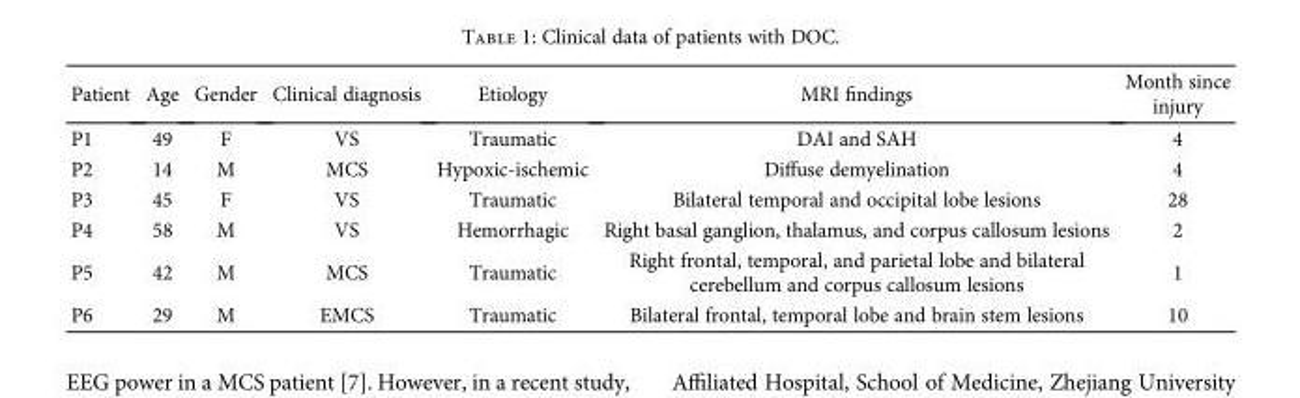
<table><thead><tr><td>Patient</td><td>Age</td><td>Gender</td><td>Clinical diagnosis</td><td>Etiology</td><td>MRI findings</td><td>Month since injury</td></tr></thead><tbody><tr><td>P1</td><td>49</td><td>F</td><td>VS</td><td>Traumatic</td><td>DAI and SAH</td><td>4</td></tr><tr><td>P2</td><td>14</td><td>M</td><td>MCS</td><td>Hypoxic-ischemic</td><td>Diffuse demyelination</td><td>4</td></tr><tr><td>P3</td><td>45</td><td>F</td><td>VS</td><td>Traumatic</td><td>Bilateral temporal and occipital lobe lesions</td><td>28</td></tr><tr><td>P4</td><td>58</td><td>M</td><td>VS</td><td>Hemorrhagic</td><td>Right basal ganglion, thalamus, and corpus callosum lesions</td><td>2</td></tr><tr><td>P5</td><td>42</td><td>M</td><td>MCS</td><td>Traumatic</td><td>Right frontal, temporal, and parietal lobe and bilateral cerebellum and corpus callosum lesions</td><td>1</td></tr><tr><td>P6</td><td>29</td><td>M</td><td>EMCS</td><td>Traumatic</td><td>Bilateral frontal, temporal lobe and brain stem lesions</td><td>10</td></tr></tbody></table>